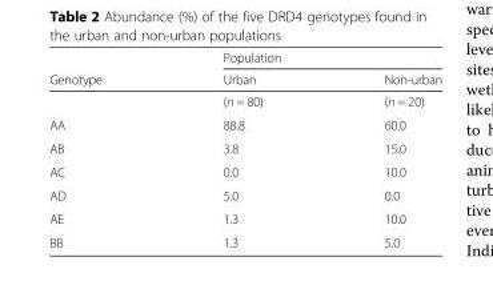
<table><thead><tr><td rowspan="2">Genotype</td><td colspan="2">Population</td></tr><tr><td>Urban</td><td>Non-urban</td></tr></thead><tbody><tr><td></td><td>(n = 80)</td><td>(n = 20)</td></tr><tr><td>AA</td><td>88.8</td><td>60.0</td></tr><tr><td>AB</td><td>3.8</td><td>15.0</td></tr><tr><td>AC</td><td>0.0</td><td>10.0</td></tr><tr><td>AD</td><td>5.0</td><td>0.0</td></tr><tr><td>AE</td><td>1.3</td><td>10.0</td></tr><tr><td>BB</td><td>1.3</td><td>5.0</td></tr></tbody></table>